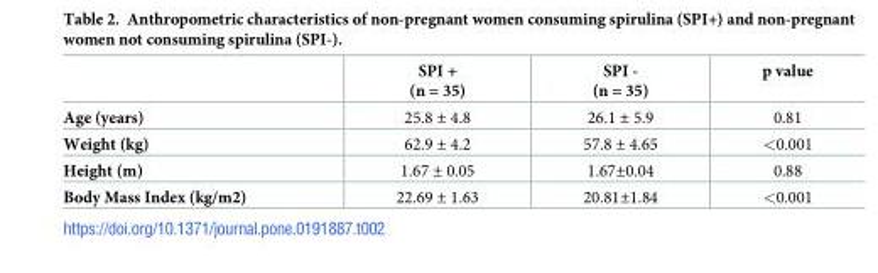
<table><thead><tr><td></td><td>SPI + (n = 35)</td><td>SPI - (n = 35)</td><td>p value</td></tr></thead><tbody><tr><td>Age (years)</td><td>25.8 ± 4.8</td><td>26.1 ± 5.9</td><td>0.81</td></tr><tr><td>Weight (kg)</td><td>62.9 ± 4.2</td><td>57.8 ± 4.65</td><td>&lt;0.001</td></tr><tr><td>Height (m)</td><td>1.67 ± 0.05</td><td>1.67±0.04</td><td>0.88</td></tr><tr><td>Body Mass Index (kg/m2)</td><td>22.69 ± 1.63</td><td>20.81±1.84</td><td>&lt;0.001</td></tr></tbody></table>